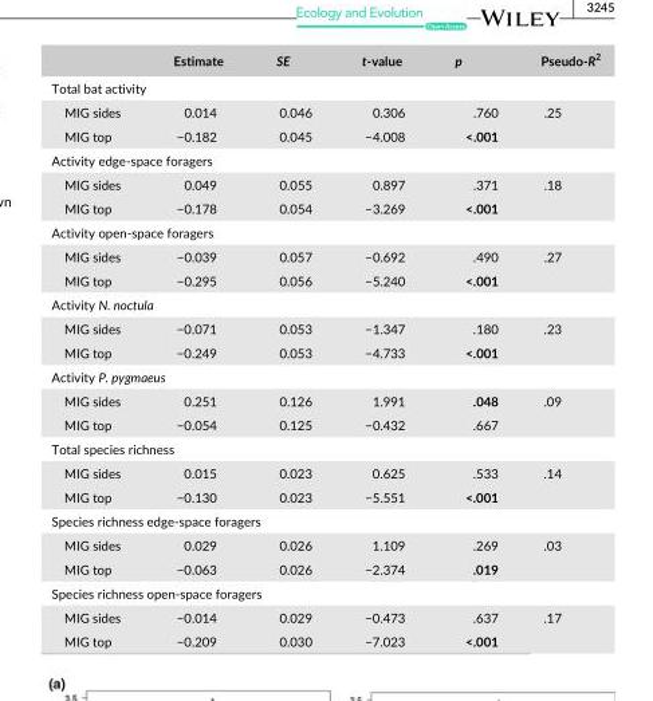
<table><thead><tr><td></td><td>Estimate</td><td>SE</td><td>t- value</td><td>p</td><td>Pseudo- R<sup>2</sup></td></tr></thead><tbody><tr><td colspan="6">Total bat activity</td></tr><tr><td>MIG sides</td><td>0.014</td><td>0.046</td><td>0.306</td><td>.760</td><td rowspan="2">.25</td></tr><tr><td>MIG top</td><td>−0.182</td><td>0.045</td><td>−4.008</td><td>&lt;.001</td></tr><tr><td colspan="6">Activity edge- space foragers</td></tr><tr><td>MIG sides</td><td>0.049</td><td>0.055</td><td>0.897</td><td>.371</td><td rowspan="2">.18</td></tr><tr><td>MIG top</td><td>−0.178</td><td>0.054</td><td>−3.269</td><td>&lt;.001</td></tr><tr><td colspan="6">Activity open- space foragers</td></tr><tr><td>MIG sides</td><td>−0.039</td><td>0.057</td><td>−0.692</td><td>.490</td><td rowspan="2">.27</td></tr><tr><td>MIG top</td><td>−0.295</td><td>0.056</td><td>−5.240</td><td>&lt;.001</td></tr><tr><td colspan="6">Activity N. noctula</td></tr><tr><td>MIG sides</td><td>−0.071</td><td>0.053</td><td>−1.347</td><td>.180</td><td rowspan="2">.23</td></tr><tr><td>MIG top</td><td>−0.249</td><td>0.053</td><td>−4.733</td><td>&lt;.001</td></tr><tr><td colspan="6">Activity P. pygmaeus</td></tr><tr><td>MIG sides</td><td>0.251</td><td>0.126</td><td>1.991</td><td>.048</td><td rowspan="2">.09</td></tr><tr><td>MIG top</td><td>−0.054</td><td>0.125</td><td>−0.432</td><td>.667</td></tr><tr><td colspan="6">Total species richness</td></tr><tr><td>MIG sides</td><td>0.015</td><td>0.023</td><td>0.625</td><td>.533</td><td rowspan="2">.14</td></tr><tr><td>MIG top</td><td>−0.130</td><td>0.023</td><td>−5.551</td><td>&lt;.001</td></tr><tr><td colspan="6">Species richness edge- space foragers</td></tr><tr><td>MIG sides</td><td>0.029</td><td>0.026</td><td>1.109</td><td>.269</td><td rowspan="2">.03</td></tr><tr><td>MIG top</td><td>−0.063</td><td>0.026</td><td>−2.374</td><td>.019</td></tr><tr><td colspan="6">Species richness open- space foragers</td></tr><tr><td>MIG sides</td><td>−0.014</td><td>0.029</td><td>−0.473</td><td>.637</td><td rowspan="2">.17</td></tr><tr><td>MIG top</td><td>−0.209</td><td>0.030</td><td>−7.023</td><td>&lt;.001</td></tr></tbody></table>